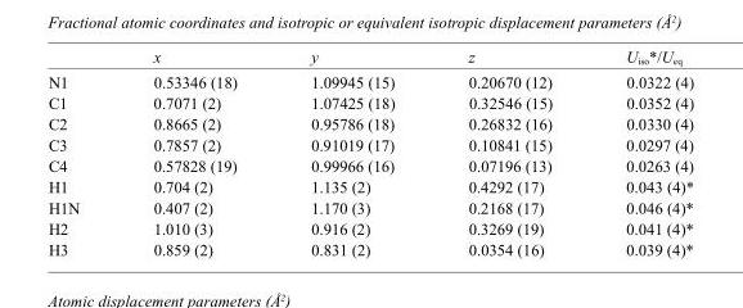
<table><thead><tr><td></td><td>x</td><td>y</td><td>z</td><td>U<sub>iso</sub>*/U<sub>eq</sub></td></tr></thead><tbody><tr><td>N1</td><td>0.53346 (18)</td><td>1.09945 (15)</td><td>0.20670 (12)</td><td>0.0322 (4)</td></tr><tr><td>C1</td><td>0.7071 (2)</td><td>1.07425 (18)</td><td>0.32546 (15)</td><td>0.0352 (4)</td></tr><tr><td>C2</td><td>0.8665 (2)</td><td>0.95786 (18)</td><td>0.26832 (16)</td><td>0.0330 (4)</td></tr><tr><td>C3</td><td>0.7857 (2)</td><td>0.91019 (17)</td><td>0.10841 (15)</td><td>0.0297 (4)</td></tr><tr><td>C4</td><td>0.57828 (19)</td><td>0.99966 (16)</td><td>0.07196 (13)</td><td>0.0263 (4)</td></tr><tr><td>H1</td><td>0.704 (2)</td><td>1.135 (2)</td><td>0.4292 (17)</td><td>0.043 (4)*</td></tr><tr><td>H1N</td><td>0.407 (2)</td><td>1.170 (3)</td><td>0.2168 (17)</td><td>0.046 (4)*</td></tr><tr><td>H2</td><td>1.010 (3)</td><td>0.916 (2)</td><td>0.3269 (19)</td><td>0.041 (4)*</td></tr><tr><td>H3</td><td>0.859 (2)</td><td>0.831 (2)</td><td>0.0354 (16)</td><td>0.039 (4)*</td></tr></tbody></table>